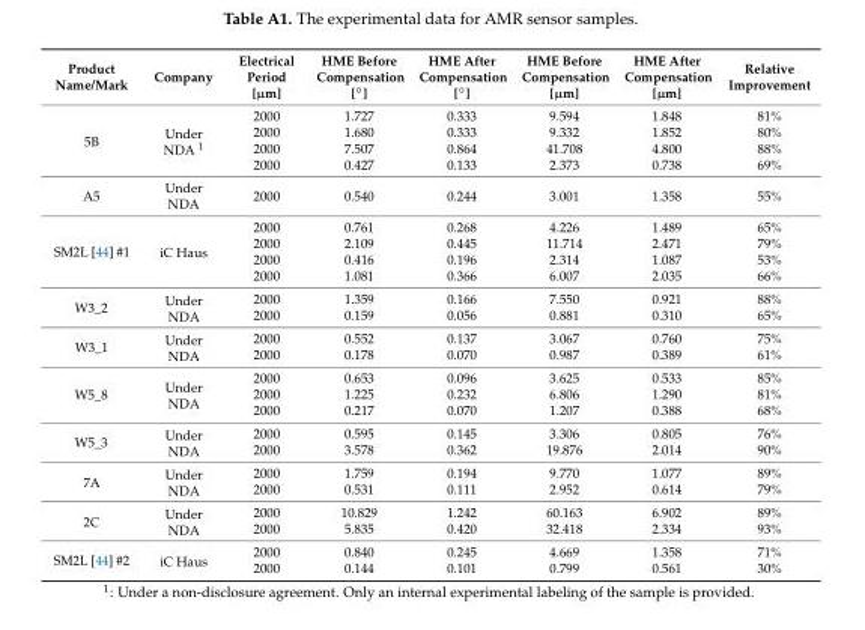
<table><thead><tr><td>Product Name/Mark</td><td>Company</td><td>Electrical Period [µm]</td><td>HME Before Compensation [◦]</td><td>HME After Compensation [◦]</td><td>HME Before Compensation [µm]</td><td>HME After Compensation [µm]</td><td>Relative Improvement</td></tr></thead><tbody><tr><td rowspan="4">5B</td><td rowspan="4">Under NDA <sup>1</sup></td><td>2000</td><td>1.727</td><td>0.333</td><td>9.594</td><td>1.848</td><td>81%</td></tr><tr><td>2000</td><td>1.680</td><td>0.333</td><td>9.332</td><td>1.852</td><td>80%</td></tr><tr><td>2000</td><td>7.507</td><td>0.864</td><td>41.708</td><td>4.800</td><td>88%</td></tr><tr><td>2000</td><td>0.427</td><td>0.133</td><td>2.373</td><td>0.738</td><td>69%</td></tr><tr><td>A5</td><td>Under NDA</td><td>2000</td><td>0.540</td><td>0.244</td><td>3.001</td><td>1.358</td><td>55%</td></tr><tr><td rowspan="4">SM2L [44] #1</td><td rowspan="4">iC Haus</td><td>2000</td><td>0.761</td><td>0.268</td><td>4.226</td><td>1.489</td><td>65%</td></tr><tr><td>2000</td><td>2.109</td><td>0.445</td><td>11.714</td><td>2.471</td><td>79%</td></tr><tr><td>2000</td><td>0.416</td><td>0.196</td><td>2.314</td><td>1.087</td><td>53%</td></tr><tr><td>2000</td><td>1.081</td><td>0.366</td><td>6.007</td><td>2.035</td><td>66%</td></tr><tr><td rowspan="2">W3_2</td><td rowspan="2">Under NDA</td><td>2000</td><td>1.359</td><td>0.166</td><td>7.550</td><td>0.921</td><td>88%</td></tr><tr><td>2000</td><td>0.159</td><td>0.056</td><td>0.881</td><td>0.310</td><td>65%</td></tr><tr><td rowspan="2">W3_1</td><td rowspan="2">Under NDA</td><td>2000</td><td>0.552</td><td>0.137</td><td>3.067</td><td>0.760</td><td>75%</td></tr><tr><td>2000</td><td>0.178</td><td>0.070</td><td>0.987</td><td>0.389</td><td>61%</td></tr><tr><td rowspan="3">W5_8</td><td rowspan="3">Under NDA</td><td>2000</td><td>0.653</td><td>0.096</td><td>3.625</td><td>0.533</td><td>85%</td></tr><tr><td>2000</td><td>1.225</td><td>0.232</td><td>6.806</td><td>1.290</td><td>81%</td></tr><tr><td>2000</td><td>0.217</td><td>0.070</td><td>1.207</td><td>0.388</td><td>68%</td></tr><tr><td rowspan="2">W5_3</td><td rowspan="2">Under NDA</td><td>2000</td><td>0.595</td><td>0.145</td><td>3.306</td><td>0.805</td><td>76%</td></tr><tr><td>2000</td><td>3.578</td><td>0.362</td><td>19.876</td><td>2.014</td><td>90%</td></tr><tr><td rowspan="2">7A</td><td rowspan="2">Under NDA</td><td>2000</td><td>1.759</td><td>0.194</td><td>9.770</td><td>1.077</td><td>89%</td></tr><tr><td>2000</td><td>0.531</td><td>0.111</td><td>2.952</td><td>0.614</td><td>79%</td></tr><tr><td rowspan="2">2C</td><td rowspan="2">Under NDA</td><td>2000</td><td>10.829</td><td>1.242</td><td>60.163</td><td>6.902</td><td>89%</td></tr><tr><td>2000</td><td>5.835</td><td>0.420</td><td>32.418</td><td>2.334</td><td>93%</td></tr><tr><td rowspan="2">SM2L [44] #2</td><td rowspan="2">iC Haus</td><td>2000</td><td>0.840</td><td>0.245</td><td>4.669</td><td>1.358</td><td>71%</td></tr><tr><td>2000</td><td>0.144</td><td>0.101</td><td>0.799</td><td>0.561</td><td>30%</td></tr></tbody></table>